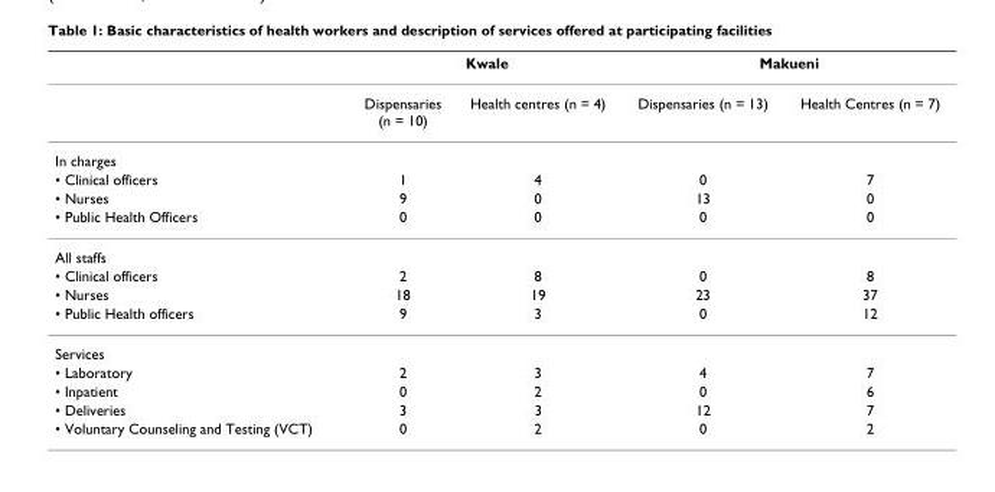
<table><thead><tr><td rowspan="2"></td><td colspan="2">Kwale</td><td colspan="2">Makueni</td></tr><tr><td>Dispensaries (n = 10)</td><td>Health centres (n = 4)</td><td>Dispensaries (n = 13)</td><td>Health Centres (n = 7)</td></tr></thead><tbody><tr><td colspan="5">In charges</td></tr><tr><td>• Clinical officers</td><td>1</td><td>4</td><td>0</td><td>7</td></tr><tr><td>• Nurses</td><td>9</td><td>0</td><td>13</td><td>0</td></tr><tr><td>• Public Health Officers</td><td>0</td><td>0</td><td>0</td><td>0</td></tr><tr><td colspan="5">All staffs</td></tr><tr><td>• Clinical officers</td><td>2</td><td>8</td><td>0</td><td>8</td></tr><tr><td>• Nurses</td><td>18</td><td>19</td><td>23</td><td>37</td></tr><tr><td>• Public Health officers</td><td>9</td><td>3</td><td>0</td><td>12</td></tr><tr><td colspan="5">Services</td></tr><tr><td>• Laboratory</td><td>2</td><td>3</td><td>4</td><td>7</td></tr><tr><td>• Inpatient</td><td>0</td><td>2</td><td>0</td><td>6</td></tr><tr><td>• Deliveries</td><td>3</td><td>3</td><td>12</td><td>7</td></tr><tr><td>• Voluntary Counseling and Testing (VCT)</td><td>0</td><td>2</td><td>0</td><td>2</td></tr></tbody></table>